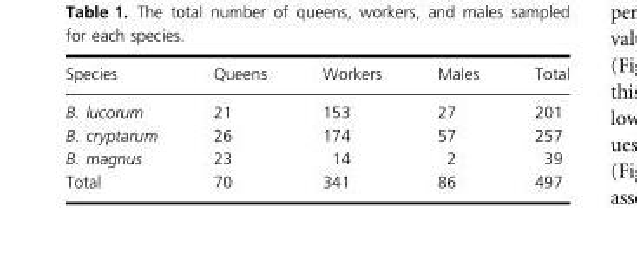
<table><thead><tr><td>Species</td><td>Queens</td><td>Workers</td><td>Males</td><td>Total</td></tr></thead><tbody><tr><td>B. lucorum</td><td>21</td><td>153</td><td>27</td><td>201</td></tr><tr><td>B. cryptarum</td><td>26</td><td>174</td><td>57</td><td>257</td></tr><tr><td>B. magnus</td><td>23</td><td>14</td><td>2</td><td>39</td></tr><tr><td>Total</td><td>70</td><td>341</td><td>86</td><td>497</td></tr></tbody></table>